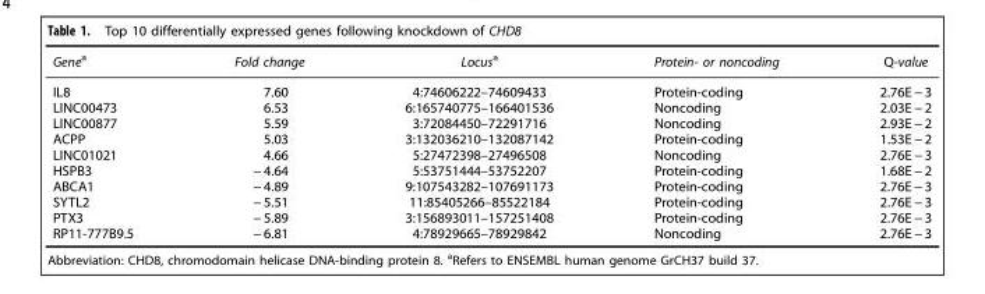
<table><thead><tr><td>Gene<sup>a</sup></td><td>Fold change</td><td>Locus<sup>a</sup></td><td>Protein- or noncoding</td><td>Q-value</td></tr></thead><tbody><tr><td>IL8</td><td>7.60</td><td>4:74606222–74609433</td><td>Protein-coding</td><td>2.76E − 3</td></tr><tr><td>LINC00473</td><td>6.53</td><td>6:165740775–166401536</td><td>Noncoding</td><td>2.03E − 2</td></tr><tr><td>LINC00877</td><td>5.59</td><td>3:72084450–72291716</td><td>Noncoding</td><td>2.93E − 2</td></tr><tr><td>ACPP</td><td>5.03</td><td>3:132036210–132087142</td><td>Protein-coding</td><td>1.53E − 2</td></tr><tr><td>LINC01021</td><td>4.66</td><td>5:27472398–27496508</td><td>Noncoding</td><td>2.76E − 3</td></tr><tr><td>HSPB3</td><td>− 4.64</td><td>5:53751444–53752207</td><td>Protein-coding</td><td>1.68E − 2</td></tr><tr><td>ABCA1</td><td>− 4.89</td><td>9:107543282–107691173</td><td>Protein-coding</td><td>2.76E − 3</td></tr><tr><td>SYTL2</td><td>− 5.51</td><td>11:85405266–85522184</td><td>Protein-coding</td><td>2.76E − 3</td></tr><tr><td>PTX3</td><td>− 5.89</td><td>3:156893011–157251408</td><td>Protein-coding</td><td>2.76E − 3</td></tr><tr><td>RP11-777B9.5</td><td>− 6.81</td><td>4:78929665–78929842</td><td>Noncoding</td><td>2.76E − 3</td></tr></tbody></table>